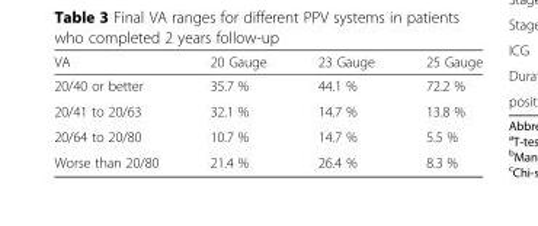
<table><thead><tr><td>VA</td><td>20 Gauge</td><td>23 Gauge</td><td>25 Gauge</td></tr></thead><tbody><tr><td>20/40 or better</td><td>35.7 %</td><td>44.1 %</td><td>72.2 %</td></tr><tr><td>20/41 to 20/63</td><td>32.1 %</td><td>14.7 %</td><td>13.8 %</td></tr><tr><td>20/64 to 20/80</td><td>10.7 %</td><td>14.7 %</td><td>5.5 %</td></tr><tr><td>Worse than 20/80</td><td>21.4 %</td><td>26.4 %</td><td>8.3 %</td></tr></tbody></table>